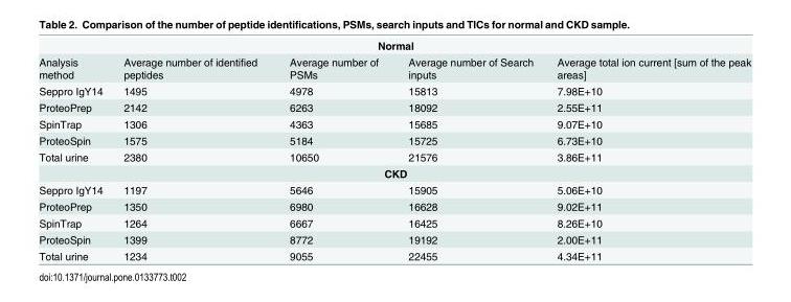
<table><tbody><tr><td colspan="5">Normal</td></tr><tr><td>Analysis method</td><td>Average number of identified peptides</td><td>Average number of PSMs</td><td>Average number of Search inputs</td><td>Average total ion current [sum of the peak areas]</td></tr><tr><td>Seppro IgY14</td><td>1495</td><td>4978</td><td>15813</td><td>7.98E+10</td></tr><tr><td>ProteoPrep</td><td>2142</td><td>6263</td><td>18092</td><td>2.55E+11</td></tr><tr><td>SpinTrap</td><td>1306</td><td>4363</td><td>15685</td><td>9.07E+10</td></tr><tr><td>ProteoSpin</td><td>1575</td><td>5184</td><td>15725</td><td>6.73E+10</td></tr><tr><td>Total urine</td><td>2380</td><td>10650</td><td>21576</td><td>3.86E+11</td></tr><tr><td colspan="5">CKD</td></tr><tr><td>Seppro IgY14</td><td>1197</td><td>5646</td><td>15905</td><td>5.06E+10</td></tr><tr><td>ProteoPrep</td><td>1350</td><td>6980</td><td>16628</td><td>9.02E+11</td></tr><tr><td>SpinTrap</td><td>1264</td><td>6667</td><td>16425</td><td>8.26E+10</td></tr><tr><td>ProteoSpin</td><td>1399</td><td>8772</td><td>19192</td><td>2.00E+11</td></tr><tr><td>Total urine</td><td>1234</td><td>9055</td><td>22455</td><td>4.34E+11</td></tr></tbody></table>